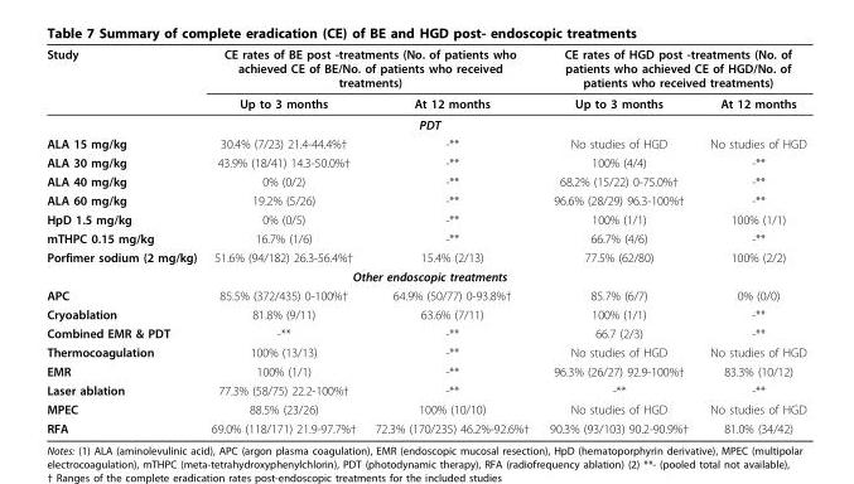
<table><thead><tr><td rowspan="2">Study</td><td colspan="2">CE rates of BE post -treatments (No. of patients who achieved CE of BE/No. of patients who received treatments)</td><td colspan="2">CE rates of HGD post -treatments (No. of patients who achieved CE of HGD/No. of patients who received treatments)</td></tr><tr><td>Up to 3 months</td><td>At 12 months</td><td>Up to 3 months</td><td>At 12 months</td></tr></thead><tbody><tr><td colspan="5">PDT</td></tr><tr><td>ALA 15 mg/kg</td><td>30.4% (7/23) 21.4-44.4%†</td><td>-**</td><td>No studies of HGD</td><td>No studies of HGD</td></tr><tr><td>ALA 30 mg/kg</td><td>43.9% (18/41) 14.3-50.0%†</td><td>-**</td><td>100% (4/4)</td><td>-**</td></tr><tr><td>ALA 40 mg/kg</td><td>0% (0/2)</td><td>-**</td><td>68.2% (15/22) 0-75.0%†</td><td>-**</td></tr><tr><td>ALA 60 mg/kg</td><td>19.2% (5/26)</td><td>-**</td><td>96.6% (28/29) 96.3-100%†</td><td>-**</td></tr><tr><td>HpD 1.5 mg/kg</td><td>0% (0/5)</td><td>-**</td><td>100% (1/1)</td><td>100% (1/1)</td></tr><tr><td>mTHPC 0.15 mg/kg</td><td>16.7% (1/6)</td><td>-**</td><td>66.7% (4/6)</td><td>-**</td></tr><tr><td>Porfimer sodium (2 mg/kg)</td><td>51.6% (94/182) 26.3-56.4%†</td><td>15.4% (2/13)</td><td>77.5% (62/80)</td><td>100% (2/2)</td></tr><tr><td colspan="5">Other endoscopic treatments</td></tr><tr><td>APC</td><td>85.5% (372/435) 0-100%†</td><td>64.9% (50/77) 0-93.8%†</td><td>85.7% (6/7)</td><td>0% (0/0)</td></tr><tr><td>Cryoablation</td><td>81.8% (9/11)</td><td>63.6% (7/11)</td><td>100% (1/1)</td><td>-**</td></tr><tr><td>Combined EMR &amp; PDT</td><td>-**</td><td>-**</td><td>66.7 (2/3)</td><td>-**</td></tr><tr><td>Thermocoagulation</td><td>100% (13/13)</td><td>-**</td><td>No studies of HGD</td><td>No studies of HGD</td></tr><tr><td>EMR</td><td>100% (1/1)</td><td>-**</td><td>96.3% (26/27) 92.9-100%†</td><td>83.3% (10/12)</td></tr><tr><td>Laser ablation</td><td>77.3% (58/75) 22.2-100%†</td><td>-**</td><td>-**</td><td>-**</td></tr><tr><td>MPEC</td><td>88.5% (23/26)</td><td>100% (10/10)</td><td>No studies of HGD</td><td>No studies of HGD</td></tr><tr><td>RFA</td><td>69.0% (118/171) 21.9-97.7%†</td><td>72.3% (170/235) 46.2%-92.6%†</td><td>90.3% (93/103) 90.2-90.9%†</td><td>81.0% (34/42)</td></tr></tbody></table>